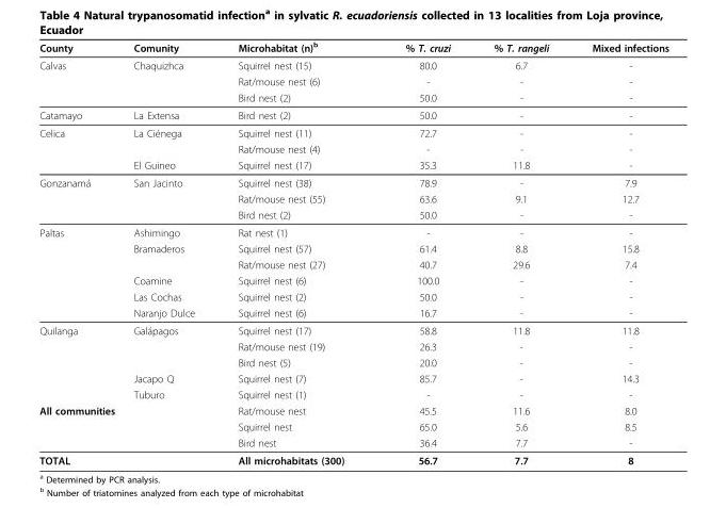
<table><thead><tr><td>County</td><td>Comunity</td><td>Microhabitat (n)b</td><td>% T. cruzi</td><td>% T. rangeli</td><td>Mixed infections</td></tr></thead><tbody><tr><td rowspan="3">Calvas</td><td>Chaquizhca</td><td>Squirrel nest (15)</td><td>80.0</td><td>6.7</td><td>-</td></tr><tr><td></td><td>Rat/mouse nest (6)</td><td>-</td><td>-</td><td>-</td></tr><tr><td></td><td>Bird nest (2)</td><td>50.0</td><td>-</td><td>-</td></tr><tr><td>Catamayo</td><td>La Extensa</td><td>Bird nest (2)</td><td>50.0</td><td>-</td><td>-</td></tr><tr><td rowspan="3">Celica</td><td>La Ciénega</td><td>Squirrel nest (11)</td><td>72.7</td><td>-</td><td>-</td></tr><tr><td></td><td>Rat/mouse nest (4)</td><td>-</td><td>-</td><td>-</td></tr><tr><td>El Guineo</td><td>Squirrel nest (17)</td><td>35.3</td><td>11.8</td><td>-</td></tr><tr><td rowspan="3">Gonzanamá</td><td>San Jacinto</td><td>Squirrel nest (38)</td><td>78.9</td><td>-</td><td>7.9</td></tr><tr><td></td><td>Rat/mouse nest (55)</td><td>63.6</td><td>9.1</td><td>12.7</td></tr><tr><td></td><td>Bird nest (2)</td><td>50.0</td><td>-</td><td>-</td></tr><tr><td rowspan="6">Paltas</td><td>Ashimingo</td><td>Rat nest (1)</td><td>-</td><td>-</td><td>-</td></tr><tr><td>Bramaderos</td><td>Squirrel nest (57)</td><td>61.4</td><td>8.8</td><td>15.8</td></tr><tr><td></td><td>Rat/mouse nest (27)</td><td>40.7</td><td>29.6</td><td>7.4</td></tr><tr><td>Coamine</td><td>Squirrel nest (6)</td><td>100.0</td><td>-</td><td>-</td></tr><tr><td>Las Cochas</td><td>Squirrel nest (2)</td><td>50.0</td><td>-</td><td>-</td></tr><tr><td>Naranjo Dulce</td><td>Squirrel nest (6)</td><td>16.7</td><td>-</td><td>-</td></tr><tr><td rowspan="5">Quilanga</td><td>Galápagos</td><td>Squirrel nest (17)</td><td>58.8</td><td>11.8</td><td>11.8</td></tr><tr><td></td><td>Rat/mouse nest (19)</td><td>26.3</td><td>-</td><td>-</td></tr><tr><td></td><td>Bird nest (5)</td><td>20.0</td><td>-</td><td>-</td></tr><tr><td>Jacapo Q</td><td>Squirrel nest (7)</td><td>85.7</td><td>-</td><td>14.3</td></tr><tr><td>Tuburo</td><td>Squirrel nest (1)</td><td>-</td><td>-</td><td>-</td></tr><tr><td colspan="2">All communities</td><td>Rat/mouse nest</td><td>45.5</td><td>11.6</td><td>8.0</td></tr><tr><td></td><td></td><td>Squirrel nest</td><td>65.0</td><td>5.6</td><td>8.5</td></tr><tr><td></td><td></td><td>Bird nest</td><td>36.4</td><td>7.7</td><td>-</td></tr><tr><td colspan="2">TOTAL</td><td>All microhabitats (300)</td><td>56.7</td><td>7.7</td><td>8</td></tr></tbody></table>